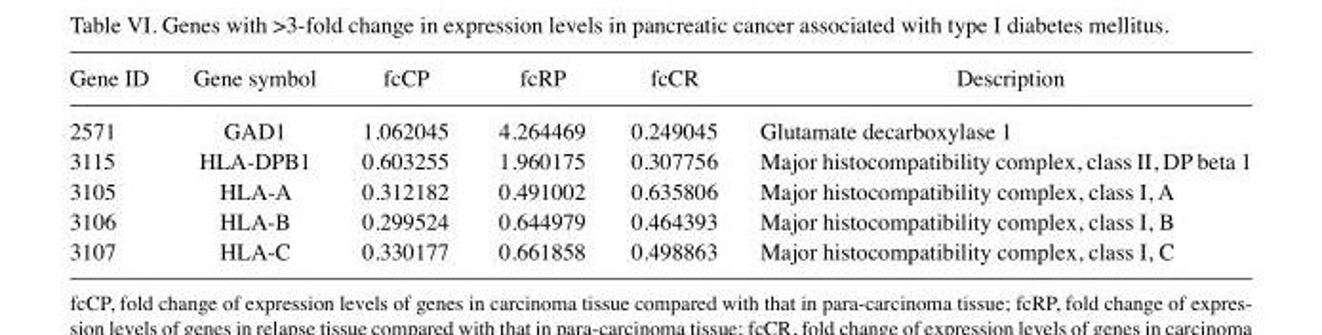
<table><thead><tr><td>Gene ID</td><td>Gene symbol</td><td>fcCP</td><td>fcRP</td><td>fcCR</td><td>Description</td></tr></thead><tbody><tr><td>2571</td><td>GAD1</td><td>1.062045</td><td>4.264469</td><td>0.249045</td><td>Glutamate decarboxylase 1</td></tr><tr><td>3115</td><td>HLA-DPB1</td><td>0.603255</td><td>1.960175</td><td>0.307756</td><td>Major histocompatibility complex, class II, DP beta 1</td></tr><tr><td>3105</td><td>HLA-A</td><td>0.312182</td><td>0.491002</td><td>0.635806</td><td>Major histocompatibility complex, class I, A</td></tr><tr><td>3106</td><td>HLA-B</td><td>0.299524</td><td>0.644979</td><td>0.464393</td><td>Major histocompatibility complex, class I, B</td></tr><tr><td>3107</td><td>HLA-C</td><td>0.330177</td><td>0.661858</td><td>0.498863</td><td>Major histocompatibility complex, class I, C</td></tr></tbody></table>